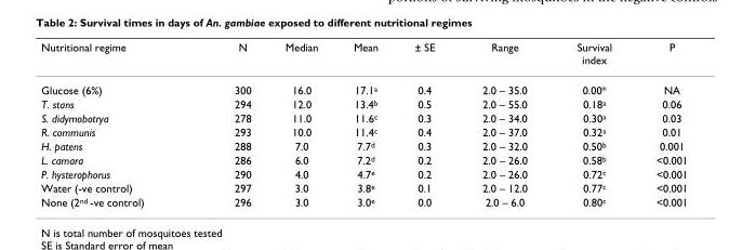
<table><thead><tr><td>Nutritional regime</td><td>N</td><td>Median</td><td>Mean</td><td>± SE</td><td>Range</td><td>Survival index</td><td>P</td></tr></thead><tbody><tr><td>Glucose (6%)</td><td>300</td><td>16.0</td><td>17.1<sup>a</sup></td><td>0.4</td><td>2.0 – 35.0</td><td>0.00*</td><td>NA</td></tr><tr><td>T. stans</td><td>294</td><td>12.0</td><td>13.4<sup>b</sup></td><td>0.5</td><td>2.0 – 55.0</td><td>0.18<sup>a</sup></td><td>0.06</td></tr><tr><td>S. didymobotrya</td><td>278</td><td>11.0</td><td>11.6<sup>c</sup></td><td>0.3</td><td>2.0 – 34.0</td><td>0.30<sup>a</sup></td><td>0.03</td></tr><tr><td>R. communis</td><td>293</td><td>10.0</td><td>11.4<sup>c</sup></td><td>0.4</td><td>2.0 – 37.0</td><td>0.32<sup>a</sup></td><td>0.01</td></tr><tr><td>H. patens</td><td>288</td><td>7.0</td><td>7.7<sup>d</sup></td><td>0.3</td><td>2.0 – 32.0</td><td>0.50<sup>b</sup></td><td>0.001</td></tr><tr><td>L. camara</td><td>286</td><td>6.0</td><td>7.2<sup>d</sup></td><td>0.2</td><td>2.0 – 26.0</td><td>0.58<sup>b</sup></td><td>&lt;0.001</td></tr><tr><td>P. hysterophorus</td><td>290</td><td>4.0</td><td>4.7<sup>e</sup></td><td>0.2</td><td>2.0 – 26.0</td><td>0.72<sup>c</sup></td><td>&lt;0.001</td></tr><tr><td>Water (-ve control)</td><td>297</td><td>3.0</td><td>3.8<sup>e</sup></td><td>0.1</td><td>2.0 – 12.0</td><td>0.77<sup>c</sup></td><td>&lt;0.001</td></tr><tr><td>None (2<sup>nd</sup> -ve control)</td><td>296</td><td>3.0</td><td>3.0<sup>e</sup></td><td>0.0</td><td>2.0 – 6.0</td><td>0.80<sup>c</sup></td><td>&lt;0.001</td></tr></tbody></table>